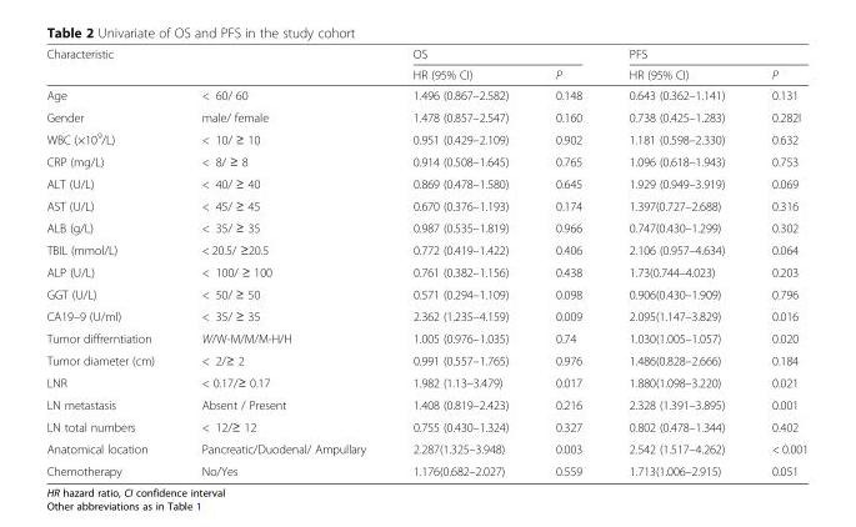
<table><thead><tr><td rowspan="2">Characteristic</td><td rowspan="2"></td><td colspan="2">OS</td><td colspan="2">PFS</td></tr><tr><td>HR (95% CI)</td><td>P</td><td>HR (95% CI)</td><td>P</td></tr></thead><tbody><tr><td>Age</td><td>&lt; 60/ 60</td><td>1.496 (0.867–2.582)</td><td>0.148</td><td>0.643 (0.362–1.141)</td><td>0.131</td></tr><tr><td>Gender</td><td>male/ female</td><td>1.478 (0.857–2.547)</td><td>0.160</td><td>0.738 (0.425–1.283)</td><td>0.282I</td></tr><tr><td>WBC (×10<sup>9</sup>/L)</td><td>&lt; 10/ ≥ 10</td><td>0.951 (0.429–2.109)</td><td>0.902</td><td>1.181 (0.598–2.330)</td><td>0.632</td></tr><tr><td>CRP (mg/L)</td><td>&lt; 8/ ≥ 8</td><td>0.914 (0.508–1.645)</td><td>0.765</td><td>1.096 (0.618–1.943)</td><td>0.753</td></tr><tr><td>ALT (U/L)</td><td>&lt; 40/ ≥ 40</td><td>0.869 (0.478–1.580)</td><td>0.645</td><td>1.929 (0.949–3.919)</td><td>0.069</td></tr><tr><td>AST (U/L)</td><td>&lt; 45/ ≥ 45</td><td>0.670 (0.376–1.193)</td><td>0.174</td><td>1.397(0.727–2.688)</td><td>0.316</td></tr><tr><td>ALB (g/L)</td><td>&lt; 35/ ≥ 35</td><td>0.987 (0.535–1.819)</td><td>0.966</td><td>0.747(0.430–1.299)</td><td>0.302</td></tr><tr><td>TBIL (mmol/L)</td><td>&lt; 20.5/ ≥20.5</td><td>0.772 (0.419–1.422)</td><td>0.406</td><td>2.106 (0.957–4.634)</td><td>0.064</td></tr><tr><td>ALP (U/L)</td><td>&lt; 100/ ≥ 100</td><td>0.761 (0.382–1.156)</td><td>0.438</td><td>1.73(0.744–4.023)</td><td>0.203</td></tr><tr><td>GGT (U/L)</td><td>&lt; 50/ ≥ 50</td><td>0.571 (0.294–1.109)</td><td>0.098</td><td>0.906(0.430–1.909)</td><td>0.796</td></tr><tr><td>CA19–9 (U/ml)</td><td>&lt; 35/ ≥ 35</td><td>2.362 (1.235–4.159)</td><td>0.009</td><td>2.095(1.147–3.829)</td><td>0.016</td></tr><tr><td>Tumor diffrerntiation</td><td>W/W-M/M/M-H/H</td><td>1.005 (0.976–1.035)</td><td>0.74</td><td>1.030(1.005–1.057)</td><td>0.020</td></tr><tr><td>Tumor diameter (cm)</td><td>&lt; 2/≥ 2</td><td>0.991 (0.557–1.765)</td><td>0.976</td><td>1.486(0.828–2.666)</td><td>0.184</td></tr><tr><td>LNR</td><td>&lt; 0.17/≥ 0.17</td><td>1.982 (1.13–3.479)</td><td>0.017</td><td>1.880(1.098–3.220)</td><td>0.021</td></tr><tr><td>LN metastasis</td><td>Absent / Present</td><td>1.408 (0.819–2.423)</td><td>0.216</td><td>2.328 (1.391–3.895)</td><td>0.001</td></tr><tr><td>LN total numbers</td><td>&lt; 12/≥ 12</td><td>0.755 (0.430–1.324)</td><td>0.327</td><td>0.802 (0.478–1.344)</td><td>0.402</td></tr><tr><td>Anatomical location</td><td>Pancreatic/Duodenal/ Ampullary</td><td>2.287(1.325–3.948)</td><td>0.003</td><td>2.542 (1.517–4.262)</td><td>&lt; 0.001</td></tr><tr><td>Chemotherapy</td><td>No/Yes</td><td>1.176(0.682–2.027)</td><td>0.559</td><td>1.713(1.006–2.915)</td><td>0.051</td></tr></tbody></table>